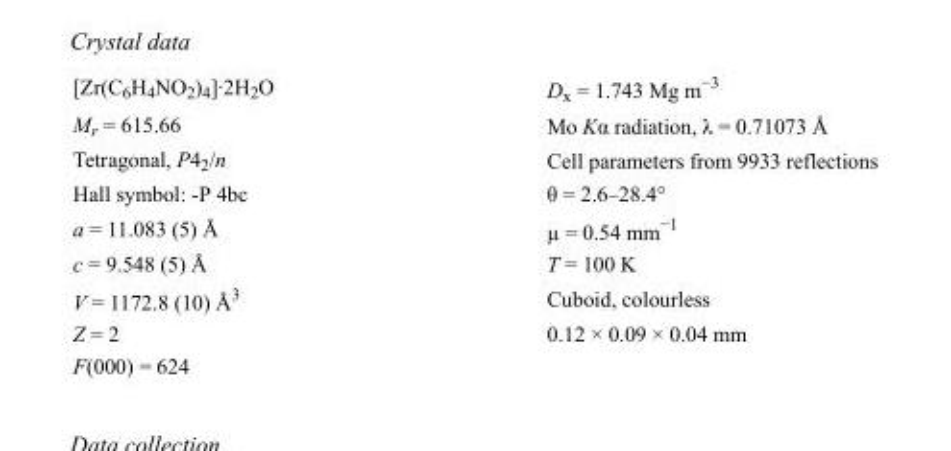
<table><tbody><tr><td>[Zr(C<sub>6</sub>H<sub>4</sub>NO<sub>2</sub>)<sub>4</sub>]·2H<sub>2</sub>O</td><td>D<sub>x</sub> = 1.743 Mg m<sup>−3</sup></td></tr><tr><td>M<sub>r</sub> = 615.66</td><td>Mo Kα radiation, λ = 0.71073 Å</td></tr><tr><td>Tetragonal, P4<sub>2</sub>/n</td><td>Cell parameters from 9933 reflections</td></tr><tr><td>Hall symbol: -P 4bc</td><td>θ = 2.6–28.4°</td></tr><tr><td>a = 11.083 (5) Å</td><td>µ = 0.54 mm<sup>−1</sup></td></tr><tr><td>c = 9.548 (5) Å</td><td>T = 100 K</td></tr><tr><td>V = 1172.8 (10) Å<sup>3</sup></td><td>Cuboid, colourless</td></tr><tr><td>Z = 2</td><td>0.12 × 0.09 × 0.04 mm</td></tr><tr><td>F(000) = 624</td><td></td></tr></tbody></table>